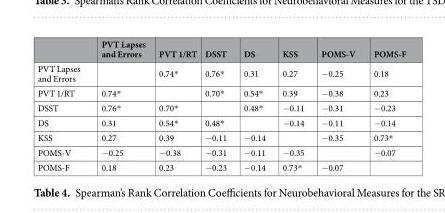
<table><thead><tr><td></td><td>PVT Lapses and Errors</td><td>PVT 1/RT</td><td>DSST</td><td>DS</td><td>KSS</td><td>POMS-V</td><td>POMS-F</td></tr></thead><tbody><tr><td>PVT Lapses and Errors</td><td></td><td>0.74*</td><td>0.76*</td><td>0.31</td><td>0.27</td><td>−0.25</td><td>0.18</td></tr><tr><td>PVT 1/RT</td><td>0.74*</td><td></td><td>0.70*</td><td>0.54*</td><td>0.39</td><td>−0.38</td><td>0.23</td></tr><tr><td>DSST</td><td>0.76*</td><td>0.70*</td><td></td><td>0.48*</td><td>−0.11</td><td>−0.31</td><td>−0.23</td></tr><tr><td>DS</td><td>0.31</td><td>0.54*</td><td>0.48*</td><td></td><td>−0.14</td><td>−0.11</td><td>−0.14</td></tr><tr><td>KSS</td><td>0.27</td><td>0.39</td><td>−0.11</td><td>−0.14</td><td></td><td>−0.35</td><td>0.73*</td></tr><tr><td>POMS-V</td><td>−0.25</td><td>−0.38</td><td>−0.31</td><td>−0.11</td><td>−0.35</td><td></td><td>−0.07</td></tr><tr><td>POMS-F</td><td>0.18</td><td>0.23</td><td>−0.23</td><td>−0.14</td><td>0.73*</td><td>−0.07</td><td></td></tr></tbody></table>